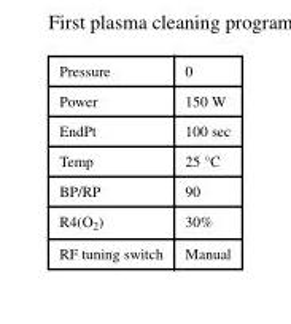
<table><tbody><tr><td>Pressure</td><td>0</td></tr><tr><td>Power</td><td>150 W</td></tr><tr><td>EndPt</td><td>100 sec</td></tr><tr><td>Temp</td><td>25 °C</td></tr><tr><td>BP/RP</td><td>90</td></tr><tr><td>R4(O<sub>2</sub>)</td><td>30%</td></tr><tr><td>RF tuning switch</td><td>Manual</td></tr></tbody></table>